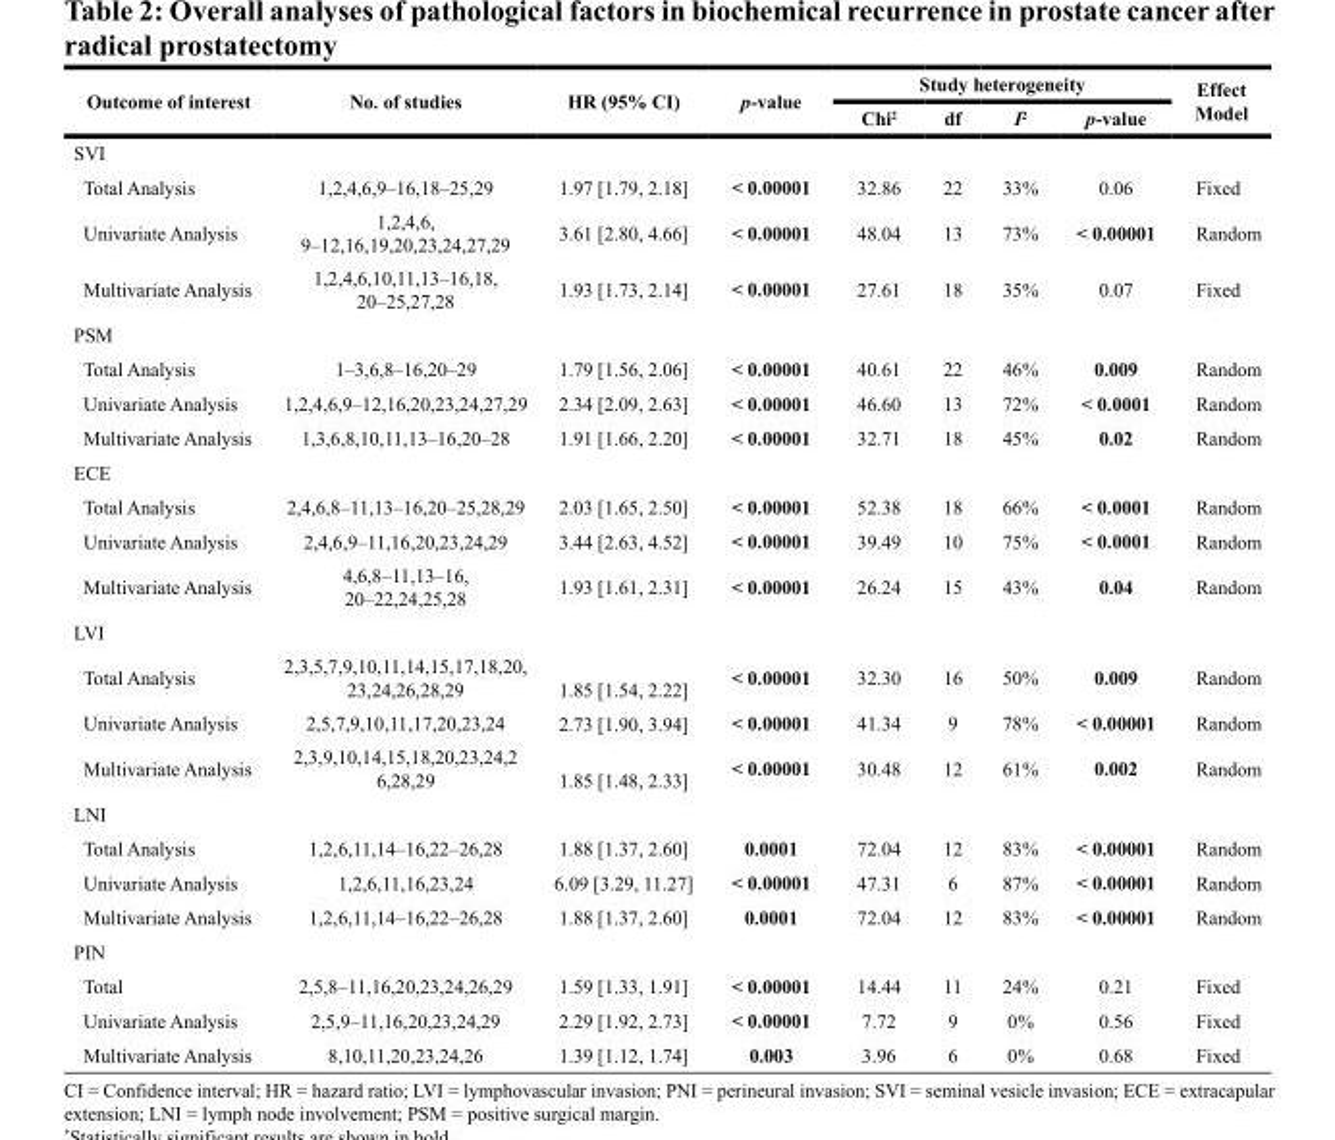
<table><thead><tr><td rowspan="2">Outcome of interest</td><td rowspan="2">No. of studies</td><td rowspan="2">HR (95% CI)</td><td rowspan="2">p-value</td><td colspan="4">Study heterogeneity</td><td rowspan="2">Effect Model</td></tr><tr><td>Chi<sup>2</sup></td><td>df</td><td>I<sup>2</sup></td><td>p-value</td></tr></thead><tbody><tr><td colspan="9">SVI</td></tr><tr><td>Total Analysis</td><td>1,2,4,6,9–16,18–25,29</td><td>1.97 [1.79, 2.18]</td><td>&lt; 0.00001</td><td>32.86</td><td>22</td><td>33%</td><td>0.06</td><td>Fixed</td></tr><tr><td>Univariate Analysis</td><td>1,2,4,6, 9–12,16,19,20,23,24,27,29</td><td>3.61 [2.80, 4.66]</td><td>&lt; 0.00001</td><td>48.04</td><td>13</td><td>73%</td><td>&lt; 0.00001</td><td>Random</td></tr><tr><td>Multivariate Analysis</td><td>1,2,4,6,10,11,13–16,18, 20–25,27,28</td><td>1.93 [1.73, 2.14]</td><td>&lt; 0.00001</td><td>27.61</td><td>18</td><td>35%</td><td>0.07</td><td>Fixed</td></tr><tr><td colspan="9">PSM</td></tr><tr><td>Total Analysis</td><td>1–3,6,8–16,20–29</td><td>1.79 [1.56, 2.06]</td><td>&lt; 0.00001</td><td>40.61</td><td>22</td><td>46%</td><td>0.009</td><td>Random</td></tr><tr><td>Univariate Analysis</td><td>1,2,4,6,9–12,16,20,23,24,27,29</td><td>2.34 [2.09, 2.63]</td><td>&lt; 0.00001</td><td>46.60</td><td>13</td><td>72%</td><td>&lt; 0.0001</td><td>Random</td></tr><tr><td>Multivariate Analysis</td><td>1,3,6,8,10,11,13–16,20–28</td><td>1.91 [1.66, 2.20]</td><td>&lt; 0.00001</td><td>32.71</td><td>18</td><td>45%</td><td>0.02</td><td>Random</td></tr><tr><td colspan="9">ECE</td></tr><tr><td>Total Analysis</td><td>2,4,6,8–11,13–16,20–25,28,29</td><td>2.03 [1.65, 2.50]</td><td>&lt; 0.00001</td><td>52.38</td><td>18</td><td>66%</td><td>&lt; 0.0001</td><td>Random</td></tr><tr><td>Univariate Analysis</td><td>2,4,6,9–11,16,20,23,24,29</td><td>3.44 [2.63, 4.52]</td><td>&lt; 0.00001</td><td>39.49</td><td>10</td><td>75%</td><td>&lt; 0.0001</td><td>Random</td></tr><tr><td>Multivariate Analysis</td><td>4,6,8–11,13–16, 20–22,24,25,28</td><td>1.93 [1.61, 2.31]</td><td>&lt; 0.00001</td><td>26.24</td><td>15</td><td>43%</td><td>0.04</td><td>Random</td></tr><tr><td colspan="9">LVI</td></tr><tr><td>Total Analysis</td><td>2,3,5,7,9,10,11,14,15,17,18,20, 23,24,26,28,29</td><td>1.85 [1.54, 2.22]</td><td>&lt; 0.00001</td><td>32.30</td><td>16</td><td>50%</td><td>0.009</td><td>Random</td></tr><tr><td>Univariate Analysis</td><td>2,5,7,9,10,11,17,20,23,24</td><td>2.73 [1.90, 3.94]</td><td>&lt; 0.00001</td><td>41.34</td><td>9</td><td>78%</td><td>&lt; 0.00001</td><td>Random</td></tr><tr><td>Multivariate Analysis</td><td>2,3,9,10,14,15,18,20,23,24,2 6,28,29</td><td>1.85 [1.48, 2.33]</td><td>&lt; 0.00001</td><td>30.48</td><td>12</td><td>61%</td><td>0.002</td><td>Random</td></tr><tr><td colspan="9">LNI</td></tr><tr><td>Total Analysis</td><td>1,2,6,11,14–16,22–26,28</td><td>1.88 [1.37, 2.60]</td><td>0.0001</td><td>72.04</td><td>12</td><td>83%</td><td>&lt; 0.00001</td><td>Random</td></tr><tr><td>Univariate Analysis</td><td>1,2,6,11,16,23,24</td><td>6.09 [3.29, 11.27]</td><td>&lt; 0.00001</td><td>47.31</td><td>6</td><td>87%</td><td>&lt; 0.00001</td><td>Random</td></tr><tr><td>Multivariate Analysis</td><td>1,2,6,11,14–16,22–26,28</td><td>1.88 [1.37, 2.60]</td><td>0.0001</td><td>72.04</td><td>12</td><td>83%</td><td>&lt; 0.00001</td><td>Random</td></tr><tr><td colspan="9">PIN</td></tr><tr><td>Total</td><td>2,5,8–11,16,20,23,24,26,29</td><td>1.59 [1.33, 1.91]</td><td>&lt; 0.00001</td><td>14.44</td><td>11</td><td>24%</td><td>0.21</td><td>Fixed</td></tr><tr><td>Univariate Analysis</td><td>2,5,9–11,16,20,23,24,29</td><td>2.29 [1.92, 2.73]</td><td>&lt; 0.00001</td><td>7.72</td><td>9</td><td>0%</td><td>0.56</td><td>Fixed</td></tr><tr><td>Multivariate Analysis</td><td>8,10,11,20,23,24,26</td><td>1.39 [1.12, 1.74]</td><td>0.003</td><td>3.96</td><td>6</td><td>0%</td><td>0.68</td><td>Fixed</td></tr></tbody></table>